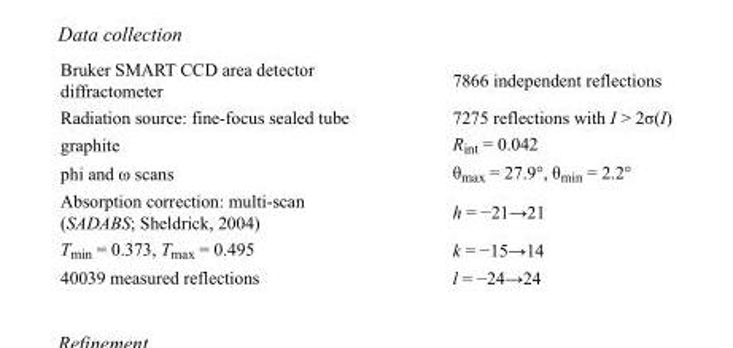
<table><tbody><tr><td>Bruker SMART CCD area detector diffractometer</td><td>7866 independent reflections</td></tr><tr><td>Radiation source: fine-focus sealed tube</td><td>7275 reflections with I &gt; 2σ(I)</td></tr><tr><td>graphite</td><td>R<sub>int</sub> = 0.042</td></tr><tr><td>phi and ω scans</td><td>θ<sub>max</sub> = 27.9°, θ<sub>min</sub> = 2.2°</td></tr><tr><td>Absorption correction: multi-scan (SADABS; Sheldrick, 2004)</td><td>h = −21→21</td></tr><tr><td>T<sub>min</sub> = 0.373, T<sub>max</sub> = 0.495</td><td>k = −15→14</td></tr><tr><td>40039 measured reflections</td><td>l = −24→24</td></tr></tbody></table>